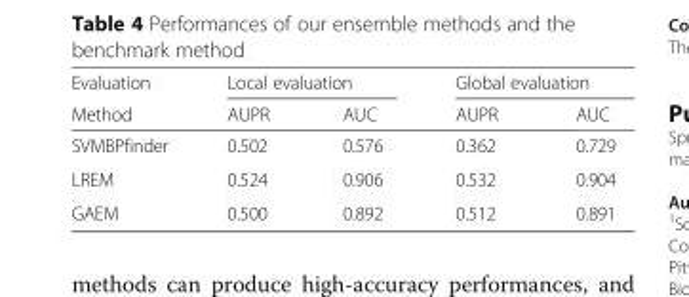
<table><thead><tr><td rowspan="2">Evaluation Method</td><td colspan="2">Local evaluation</td><td colspan="2">Global evaluation</td></tr><tr><td>AUPR</td><td>AUC</td><td>AUPR</td><td>AUC</td></tr></thead><tbody><tr><td>SVMBPfinder</td><td>0.502</td><td>0.576</td><td>0.362</td><td>0.729</td></tr><tr><td>LREM</td><td>0.524</td><td>0.906</td><td>0.532</td><td>0.904</td></tr><tr><td>GAEM</td><td>0.500</td><td>0.892</td><td>0.512</td><td>0.891</td></tr></tbody></table>